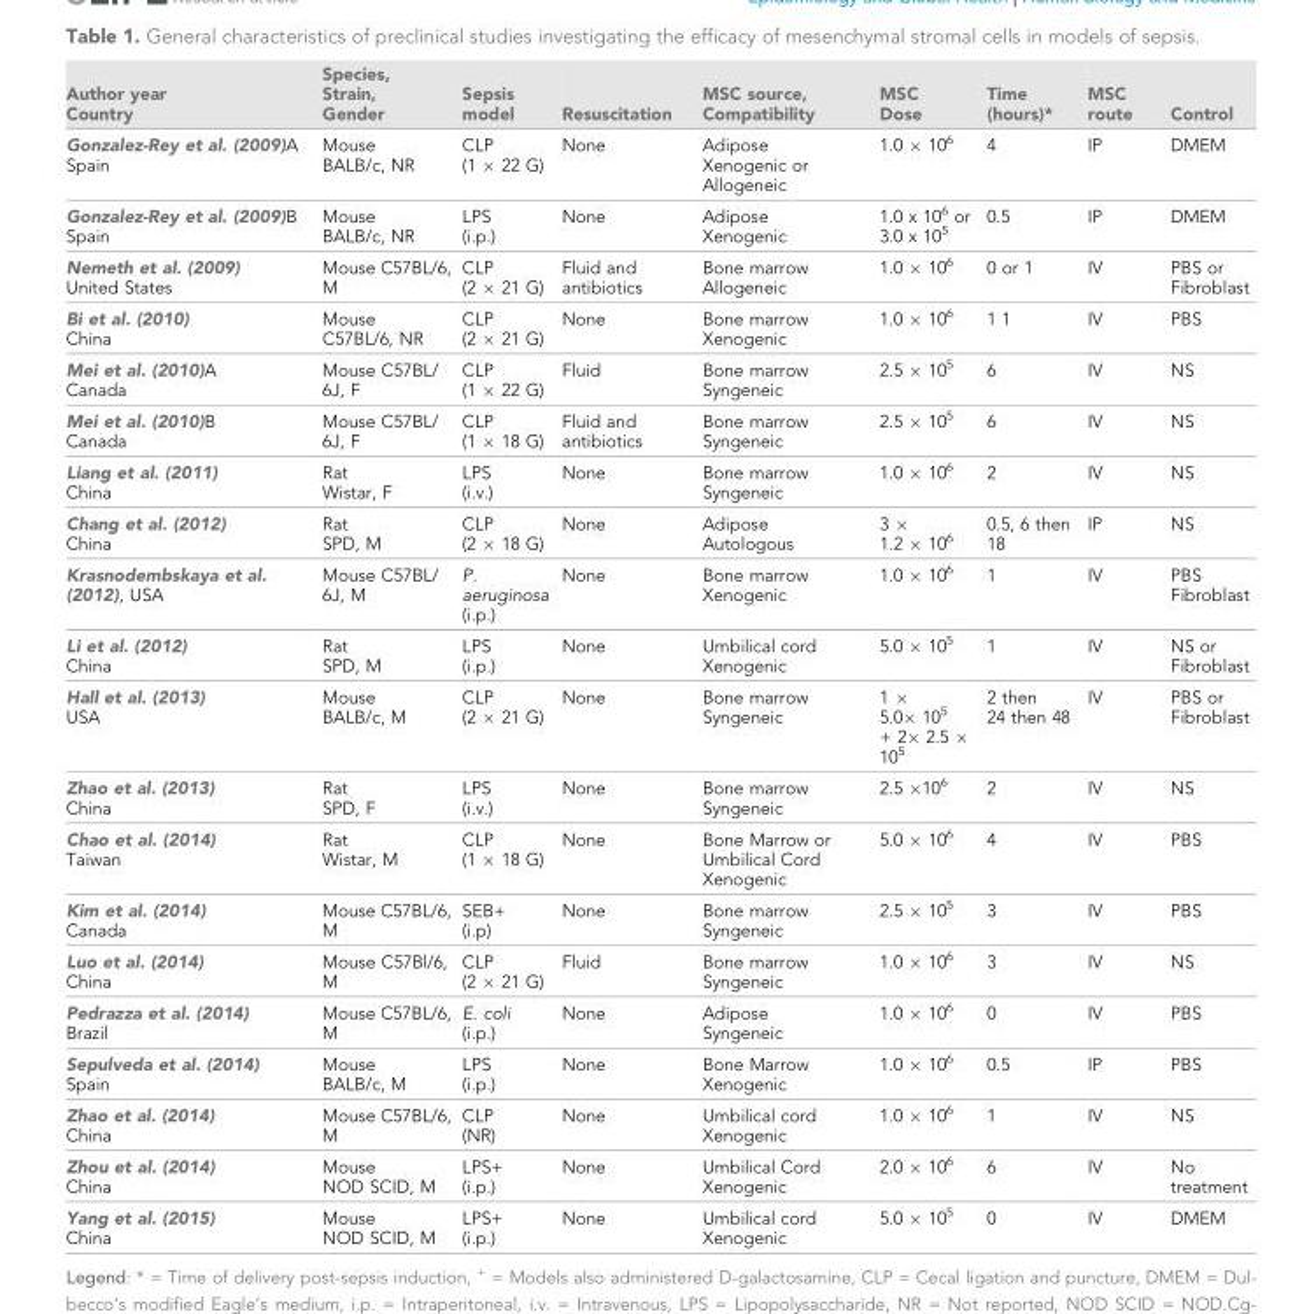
<table><thead><tr><td>Author year Country</td><td>Species, Strain, Gender</td><td>Sepsis model</td><td>Resuscitation</td><td>MSC source, Compatibility</td><td>MSC Dose</td><td>Time (hours)*</td><td>MSC route</td><td>Control</td></tr></thead><tbody><tr><td>Gonzalez-Rey et al. (2009)A Spain</td><td>Mouse BALB/c, NR</td><td>CLP (1 × 22 G)</td><td>None</td><td>Adipose Xenogenic or Allogeneic</td><td>1.0 × 10<sup>6</sup></td><td>4</td><td>IP</td><td>DMEM</td></tr><tr><td>Gonzalez-Rey et al. (2009)B Spain</td><td>Mouse BALB/c, NR</td><td>LPS (i.p.)</td><td>None</td><td>Adipose Xenogenic</td><td>1.0 x 10<sup>6</sup> or 3.0 x 10<sup>5</sup></td><td>0.5</td><td>IP</td><td>DMEM</td></tr><tr><td>Nemeth et al. (2009) United States</td><td>Mouse C57BL/6, M</td><td>CLP (2 × 21 G)</td><td>Fluid and antibiotics</td><td>Bone marrow Allogeneic</td><td>1.0 × 10<sup>6</sup></td><td>0 or 1</td><td>IV</td><td>PBS or Fibroblast</td></tr><tr><td>Bi et al. (2010) China</td><td>Mouse C57BL/6, NR</td><td>CLP (2 × 21 G)</td><td>None</td><td>Bone marrow Xenogenic</td><td>1.0 × 10<sup>6</sup></td><td>1 1</td><td>IV</td><td>PBS</td></tr><tr><td>Mei et al. (2010)A Canada</td><td>Mouse C57BL/ 6J, F</td><td>CLP (1 × 22 G)</td><td>Fluid</td><td>Bone marrow Syngeneic</td><td>2.5 × 10<sup>5</sup></td><td>6</td><td>IV</td><td>NS</td></tr><tr><td>Mei et al. (2010)B Canada</td><td>Mouse C57BL/ 6J, F</td><td>CLP (1 × 18 G)</td><td>Fluid and antibiotics</td><td>Bone marrow Syngeneic</td><td>2.5 × 10<sup>5</sup></td><td>6</td><td>IV</td><td>NS</td></tr><tr><td>Liang et al. (2011) China</td><td>Rat Wistar, F</td><td>LPS (i.v.)</td><td>None</td><td>Bone marrow Syngeneic</td><td>1.0 × 10<sup>6</sup></td><td>2</td><td>IV</td><td>NS</td></tr><tr><td>Chang et al. (2012) China</td><td>Rat SPD, M</td><td>CLP (2 × 18 G)</td><td>None</td><td>Adipose Autologous</td><td>3 × 1.2 × 10<sup>6</sup></td><td>0.5, 6 then 18</td><td>IP</td><td>NS</td></tr><tr><td>Krasnodembskaya et al. (2012), USA</td><td>Mouse C57BL/ 6J, M</td><td>P. aeruginosa (i.p.)</td><td>None</td><td>Bone marrow Xenogenic</td><td>1.0 × 10<sup>6</sup></td><td>1</td><td>IV</td><td>PBS Fibroblast</td></tr><tr><td>Li et al. (2012) China</td><td>Rat SPD, M</td><td>LPS (i.p.)</td><td>None</td><td>Umbilical cord Xenogenic</td><td>5.0 × 10<sup>5</sup></td><td>1</td><td>IV</td><td>NS or Fibroblast</td></tr><tr><td>Hall et al. (2013) USA</td><td>Mouse BALB/c, M</td><td>CLP (2 × 21 G)</td><td>None</td><td>Bone marrow Syngeneic</td><td>1 × 5.0× 10<sup>5</sup> + 2× 2.5 × 10<sup>5</sup></td><td>2 then 24 then 48</td><td>IV</td><td>PBS or Fibroblast</td></tr><tr><td>Zhao et al. (2013) China</td><td>Rat SPD, F</td><td>LPS (i.v.)</td><td>None</td><td>Bone marrow Syngeneic</td><td>2.5 ×10<sup>6</sup></td><td>2</td><td>IV</td><td>NS</td></tr><tr><td>Chao et al. (2014) Taiwan</td><td>Rat Wistar, M</td><td>CLP (1 × 18 G)</td><td>None</td><td>Bone Marrow or Umbilical Cord Xenogenic</td><td>5.0 × 10<sup>6</sup></td><td>4</td><td>IV</td><td>PBS</td></tr><tr><td>Kim et al. (2014) Canada</td><td>Mouse C57BL/6, M</td><td>SEB+ (i.p)</td><td>None</td><td>Bone marrow Syngeneic</td><td>2.5 × 10<sup>5</sup></td><td>3</td><td>IV</td><td>PBS</td></tr><tr><td>Luo et al. (2014) China</td><td>Mouse C57Bl/6, M</td><td>CLP (2 × 21 G)</td><td>Fluid</td><td>Bone marrow Syngeneic</td><td>1.0 × 10<sup>6</sup></td><td>3</td><td>IV</td><td>NS</td></tr><tr><td>Pedrazza et al. (2014) Brazil</td><td>Mouse C57BL/6, M</td><td>E. coli (i.p.)</td><td>None</td><td>Adipose Syngeneic</td><td>1.0 × 10<sup>6</sup></td><td>0</td><td>IV</td><td>PBS</td></tr><tr><td>Sepulveda et al. (2014) Spain</td><td>Mouse BALB/c, M</td><td>LPS (i.p.)</td><td>None</td><td>Bone Marrow Xenogenic</td><td>1.0 × 10<sup>6</sup></td><td>0.5</td><td>IP</td><td>PBS</td></tr><tr><td>Zhao et al. (2014) China</td><td>Mouse C57BL/6, M</td><td>CLP (NR)</td><td>None</td><td>Umbilical cord Xenogenic</td><td>1.0 × 10<sup>6</sup></td><td>1</td><td>IV</td><td>NS</td></tr><tr><td>Zhou et al. (2014) China</td><td>Mouse NOD SCID, M</td><td>LPS+ (i.p.)</td><td>None</td><td>Umbilical Cord Xenogenic</td><td>2.0 × 10<sup>6</sup></td><td>6</td><td>IV</td><td>No treatment</td></tr><tr><td>Yang et al. (2015) China</td><td>Mouse NOD SCID, M</td><td>LPS+ (i.p.)</td><td>None</td><td>Umbilical cord Xenogenic</td><td>5.0 × 10<sup>5</sup></td><td>0</td><td>IV</td><td>DMEM</td></tr></tbody></table>